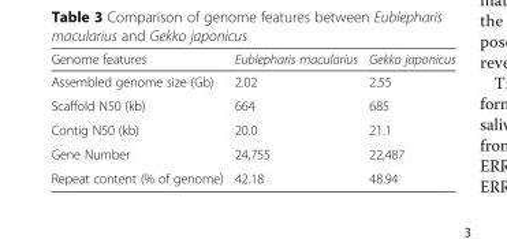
<table><thead><tr><td>Genome features</td><td>Eublepharis macularius</td><td>Gekko japonicus</td></tr></thead><tbody><tr><td>Assembled genome size (Gb)</td><td>2.02</td><td>2.55</td></tr><tr><td>Scaffold N50 (kb)</td><td>664</td><td>685</td></tr><tr><td>Contig N50 (kb)</td><td>20.0</td><td>21.1</td></tr><tr><td>Gene Number</td><td>24,755</td><td>22,487</td></tr><tr><td>Repeat content (% of genome)</td><td>42.18</td><td>48.94</td></tr></tbody></table>